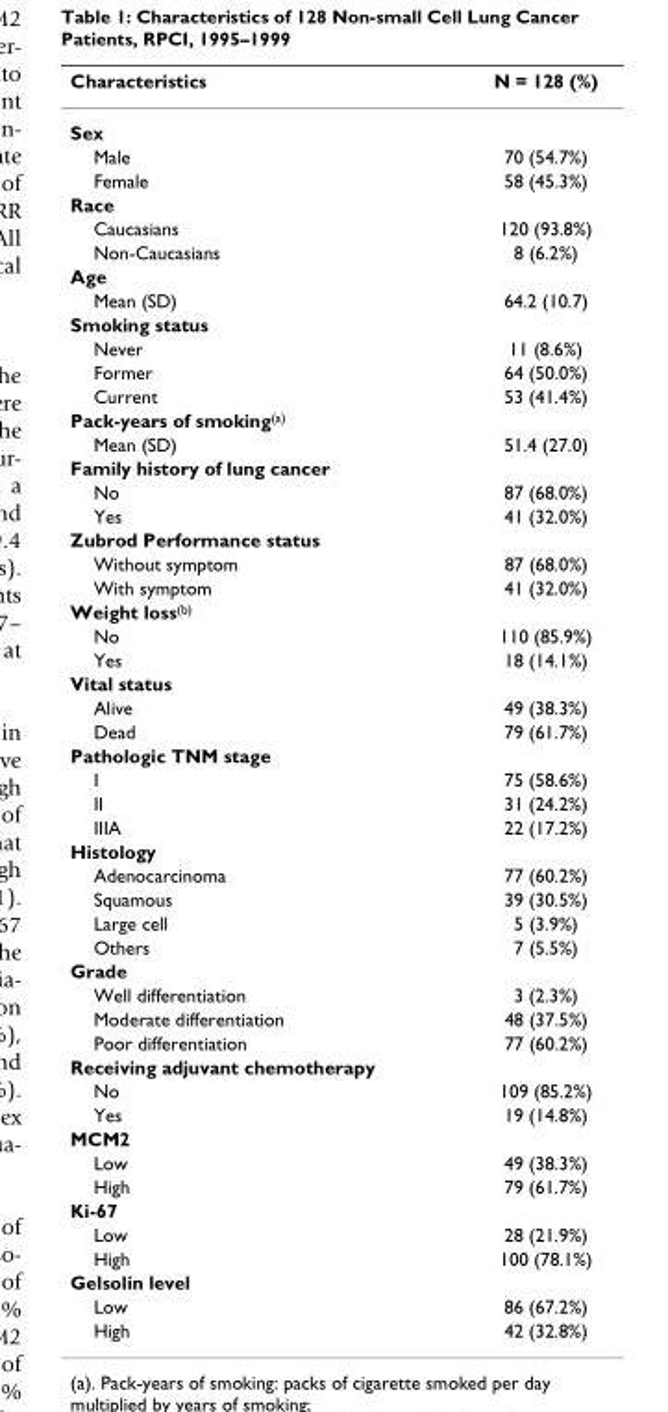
<table><thead><tr><td>Characteristics</td><td>N = 128 (%)</td></tr></thead><tbody><tr><td colspan="2">Sex</td></tr><tr><td>Male</td><td>70 (54.7%)</td></tr><tr><td>Female</td><td>58 (45.3%)</td></tr><tr><td colspan="2">Race</td></tr><tr><td>Caucasians</td><td>120 (93.8%)</td></tr><tr><td>Non-Caucasians</td><td>8 (6.2%)</td></tr><tr><td colspan="2">Age</td></tr><tr><td>Mean (SD)</td><td>64.2 (10.7)</td></tr><tr><td colspan="2">Smoking status</td></tr><tr><td>Never</td><td>11 (8.6%)</td></tr><tr><td>Former</td><td>64 (50.0%)</td></tr><tr><td>Current</td><td>53 (41.4%)</td></tr><tr><td colspan="2">Pack-years of smoking(a)</td></tr><tr><td>Mean (SD)</td><td>51.4 (27.0)</td></tr><tr><td colspan="2">Family history of lung cancer</td></tr><tr><td>No</td><td>87 (68.0%)</td></tr><tr><td>Yes</td><td>41 (32.0%)</td></tr><tr><td colspan="2">Zubrod Performance status</td></tr><tr><td>Without symptom</td><td>87 (68.0%)</td></tr><tr><td>With symptom</td><td>41 (32.0%)</td></tr><tr><td colspan="2">Weight loss(b)</td></tr><tr><td>No</td><td>110 (85.9%)</td></tr><tr><td>Yes</td><td>18 (14.1%)</td></tr><tr><td colspan="2">Vital status</td></tr><tr><td>Alive</td><td>49 (38.3%)</td></tr><tr><td>Dead</td><td>79 (61.7%)</td></tr><tr><td colspan="2">Pathologic TNM stage</td></tr><tr><td>I</td><td>75 (58.6%)</td></tr><tr><td>II</td><td>31 (24.2%)</td></tr><tr><td>IIIA</td><td>22 (17.2%)</td></tr><tr><td colspan="2">Histology</td></tr><tr><td>Adenocarcinoma</td><td>77 (60.2%)</td></tr><tr><td>Squamous</td><td>39 (30.5%)</td></tr><tr><td>Large cell</td><td>5 (3.9%)</td></tr><tr><td>Others</td><td>7 (5.5%)</td></tr><tr><td colspan="2">Grade</td></tr><tr><td>Well differentiation</td><td>3 (2.3%)</td></tr><tr><td>Moderate differentiation</td><td>48 (37.5%)</td></tr><tr><td>Poor differentiation</td><td>77 (60.2%)</td></tr><tr><td colspan="2">Receiving adjuvant chemotherapy</td></tr><tr><td>No</td><td>109 (85.2%)</td></tr><tr><td>Yes</td><td>19 (14.8%)</td></tr><tr><td colspan="2">MCM2</td></tr><tr><td>Low</td><td>49 (38.3%)</td></tr><tr><td>High</td><td>79 (61.7%)</td></tr><tr><td colspan="2">Ki-67</td></tr><tr><td>Low</td><td>28 (21.9%)</td></tr><tr><td>High</td><td>100 (78.1%)</td></tr><tr><td colspan="2">Gelsolin level</td></tr><tr><td>Low</td><td>86 (67.2%)</td></tr><tr><td>High</td><td>42 (32.8%)</td></tr></tbody></table>